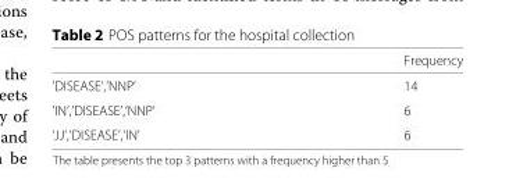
<table><thead><tr><td></td><td>Frequency</td></tr></thead><tbody><tr><td>’DISEASE’,’NNP’</td><td>14</td></tr><tr><td>’IN’,’DISEASE’,’NNP’</td><td>6</td></tr><tr><td>’JJ’,’DISEASE’,’IN’</td><td>6</td></tr></tbody></table>